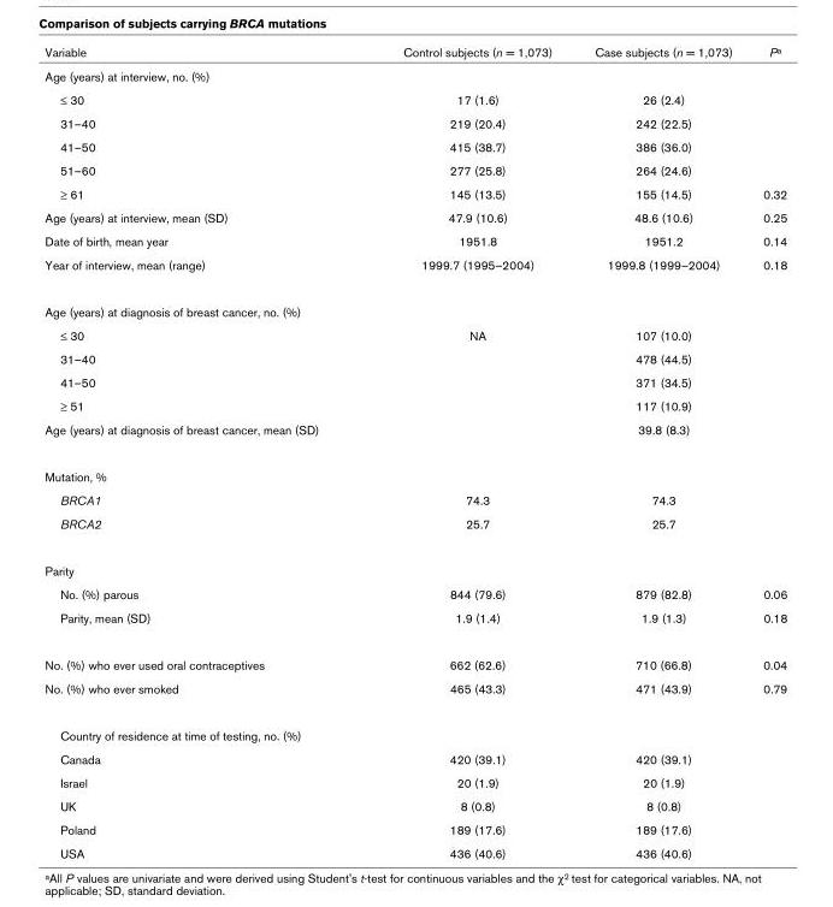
<table><thead><tr><td>Variable</td><td>Control subjects (n = 1,073)</td><td>Case subjects (n = 1,073)</td><td>Pa</td></tr></thead><tbody><tr><td colspan="4">Age (years) at interview, no. (%)</td></tr><tr><td>≤ 30</td><td>17 (1.6)</td><td>26 (2.4)</td><td></td></tr><tr><td>31–40</td><td>219 (20.4)</td><td>242 (22.5)</td><td></td></tr><tr><td>41–50</td><td>415 (38.7)</td><td>386 (36.0)</td><td></td></tr><tr><td>51–60</td><td>277 (25.8)</td><td>264 (24.6)</td><td></td></tr><tr><td>≥ 61</td><td>145 (13.5)</td><td>155 (14.5)</td><td>0.32</td></tr><tr><td>Age (years) at interview, mean (SD)</td><td>47.9 (10.6)</td><td>48.6 (10.6)</td><td>0.25</td></tr><tr><td>Date of birth, mean year</td><td>1951.8</td><td>1951.2</td><td>0.14</td></tr><tr><td>Year of interview, mean (range)</td><td>1999.7 (1995–2004)</td><td>1999.8 (1999–2004)</td><td>0.18</td></tr><tr><td colspan="4">Age (years) at diagnosis of breast cancer, no. (%)</td></tr><tr><td>≤ 30</td><td>NA</td><td>107 (10.0)</td><td></td></tr><tr><td>31–40</td><td></td><td>478 (44.5)</td><td></td></tr><tr><td>41–50</td><td></td><td>371 (34.5)</td><td></td></tr><tr><td>≥ 51</td><td></td><td>117 (10.9)</td><td></td></tr><tr><td>Age (years) at diagnosis of breast cancer, mean (SD)</td><td></td><td>39.8 (8.3)</td><td></td></tr><tr><td colspan="4">Mutation, %</td></tr><tr><td>BRCA1</td><td>74.3</td><td>74.3</td><td></td></tr><tr><td>BRCA2</td><td>25.7</td><td>25.7</td><td></td></tr><tr><td colspan="4">Parity</td></tr><tr><td>No. (%) parous</td><td>844 (79.6)</td><td>879 (82.8)</td><td>0.06</td></tr><tr><td>Parity, mean (SD)</td><td>1.9 (1.4)</td><td>1.9 (1.3)</td><td>0.18</td></tr><tr><td>No. (%) who ever used oral contraceptives</td><td>662 (62.6)</td><td>710 (66.8)</td><td>0.04</td></tr><tr><td>No. (%) who ever smoked</td><td>465 (43.3)</td><td>471 (43.9)</td><td>0.79</td></tr><tr><td colspan="4">Country of residence at time of testing, no. (%)</td></tr><tr><td>Canada</td><td>420 (39.1)</td><td>420 (39.1)</td><td></td></tr><tr><td>Israel</td><td>20 (1.9)</td><td>20 (1.9)</td><td></td></tr><tr><td>UK</td><td>8 (0.8)</td><td>8 (0.8)</td><td></td></tr><tr><td>Poland</td><td>189 (17.6)</td><td>189 (17.6)</td><td></td></tr><tr><td>USA</td><td>436 (40.6)</td><td>436 (40.6)</td><td></td></tr></tbody></table>